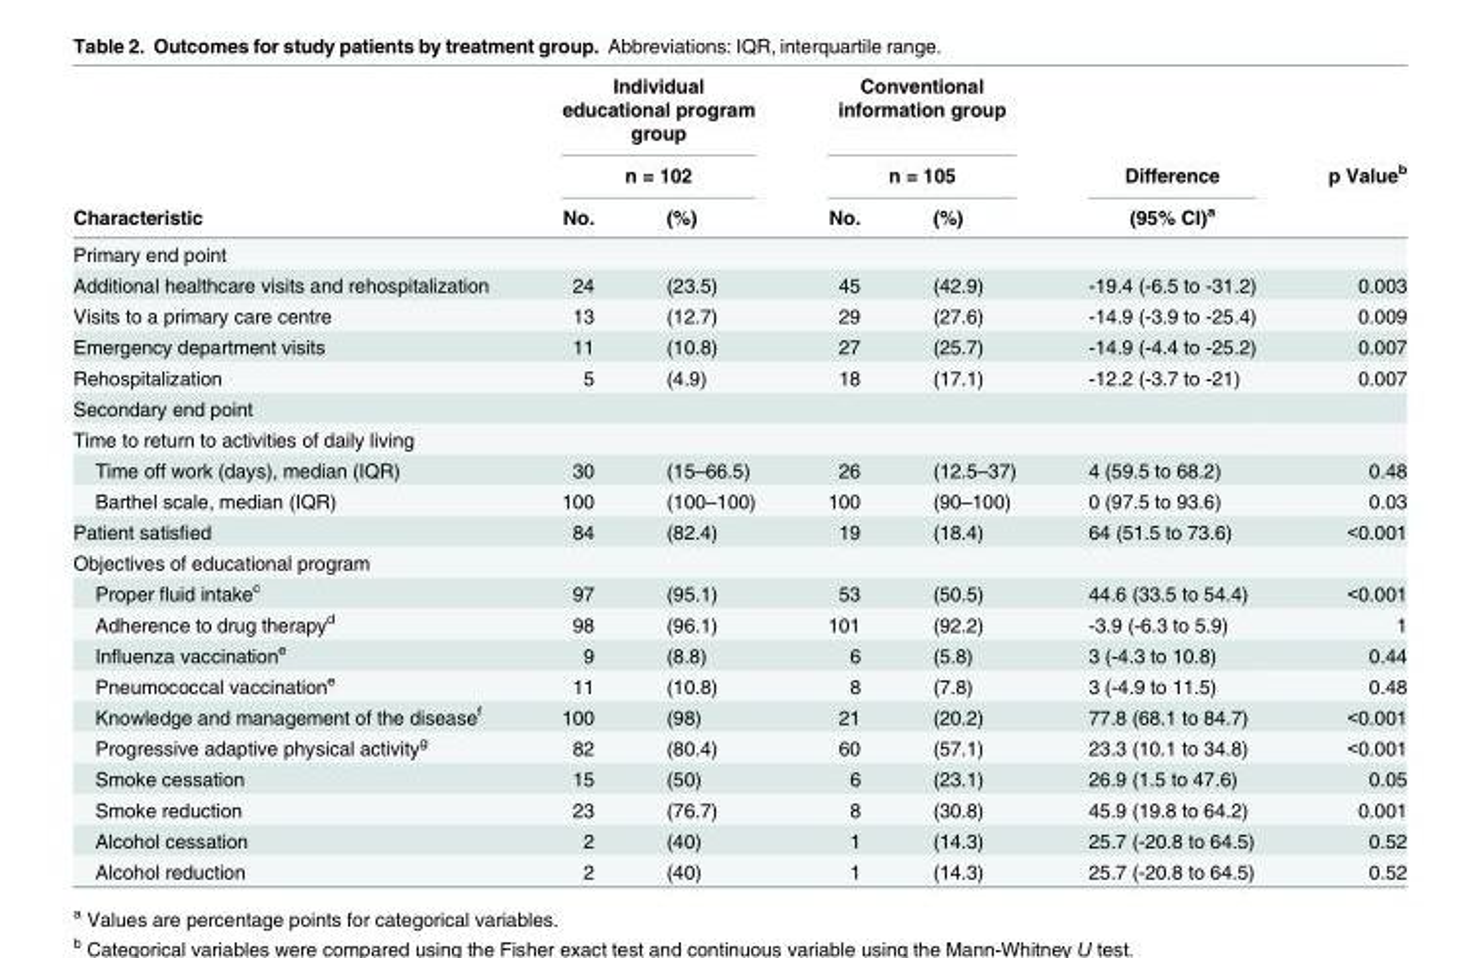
<table><thead><tr><td rowspan="3">Characteristic</td><td rowspan="2" colspan="2">Individual educational program group n = 102</td><td rowspan="2" colspan="2">Conventional information group n = 105</td><td rowspan="3">Difference (95% CI)<sup>a</sup></td><td rowspan="3">p Value<sup>b</sup></td></tr><tr></tr><tr><td>No.</td><td>(%)</td><td>No.</td><td>(%)</td></tr></thead><tbody><tr><td colspan="7">Primary end point</td></tr><tr><td>Additional healthcare visits and rehospitalization</td><td>24</td><td>(23.5)</td><td>45</td><td>(42.9)</td><td>-19.4 (-6.5 to -31.2)</td><td>0.003</td></tr><tr><td>Visits to a primary care centre</td><td>13</td><td>(12.7)</td><td>29</td><td>(27.6)</td><td>-14.9 (-3.9 to -25.4)</td><td>0.009</td></tr><tr><td>Emergency department visits</td><td>11</td><td>(10.8)</td><td>27</td><td>(25.7)</td><td>-14.9 (-4.4 to -25.2)</td><td>0.007</td></tr><tr><td>Rehospitalization</td><td>5</td><td>(4.9)</td><td>18</td><td>(17.1)</td><td>-12.2 (-3.7 to -21)</td><td>0.007</td></tr><tr><td colspan="7">Secondary end point</td></tr><tr><td colspan="7">Time to return to activities of daily living</td></tr><tr><td>Time off work (days), median (IQR)</td><td>30</td><td>(15–66.5)</td><td>26</td><td>(12.5–37)</td><td>4 (59.5 to 68.2)</td><td>0.48</td></tr><tr><td>Barthel scale, median (IQR)</td><td>100</td><td>(100–100)</td><td>100</td><td>(90–100)</td><td>0 (97.5 to 93.6)</td><td>0.03</td></tr><tr><td>Patient satisfied</td><td>84</td><td>(82.4)</td><td>19</td><td>(18.4)</td><td>64 (51.5 to 73.6)</td><td>&lt;0.001</td></tr><tr><td colspan="7">Objectives of educational program</td></tr><tr><td>Proper fluid intake<sup>c</sup></td><td>97</td><td>(95.1)</td><td>53</td><td>(50.5)</td><td>44.6 (33.5 to 54.4)</td><td>&lt;0.001</td></tr><tr><td>Adherence to drug therapy<sup>d</sup></td><td>98</td><td>(96.1)</td><td>101</td><td>(92.2)</td><td>-3.9 (-6.3 to 5.9)</td><td>1</td></tr><tr><td>Influenza vaccination<sup>e</sup></td><td>9</td><td>(8.8)</td><td>6</td><td>(5.8)</td><td>3 (-4.3 to 10.8)</td><td>0.44</td></tr><tr><td>Pneumococcal vaccination<sup>e</sup></td><td>11</td><td>(10.8)</td><td>8</td><td>(7.8)</td><td>3 (-4.9 to 11.5)</td><td>0.48</td></tr><tr><td>Knowledge and management of the disease<sup>f</sup></td><td>100</td><td>(98)</td><td>21</td><td>(20.2)</td><td>77.8 (68.1 to 84.7)</td><td>&lt;0.001</td></tr><tr><td>Progressive adaptive physical activity<sup>g</sup></td><td>82</td><td>(80.4)</td><td>60</td><td>(57.1)</td><td>23.3 (10.1 to 34.8)</td><td>&lt;0.001</td></tr><tr><td>Smoke cessation</td><td>15</td><td>(50)</td><td>6</td><td>(23.1)</td><td>26.9 (1.5 to 47.6)</td><td>0.05</td></tr><tr><td>Smoke reduction</td><td>23</td><td>(76.7)</td><td>8</td><td>(30.8)</td><td>45.9 (19.8 to 64.2)</td><td>0.001</td></tr><tr><td>Alcohol cessation</td><td>2</td><td>(40)</td><td>1</td><td>(14.3)</td><td>25.7 (-20.8 to 64.5)</td><td>0.52</td></tr><tr><td>Alcohol reduction</td><td>2</td><td>(40)</td><td>1</td><td>(14.3)</td><td>25.7 (-20.8 to 64.5)</td><td>0.52</td></tr></tbody></table>